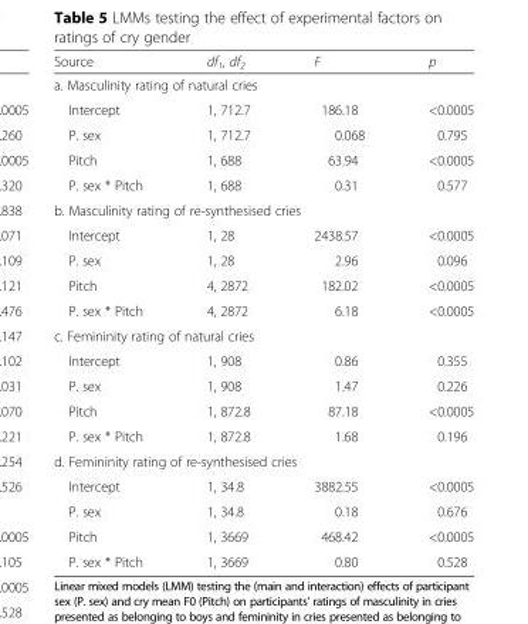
<table><thead><tr><td>Source</td><td>df<sub>1</sub>, df<sub>2</sub></td><td>F</td><td>p</td></tr></thead><tbody><tr><td colspan="4">a. Masculinity rating of natural cries</td></tr><tr><td>Intercept</td><td>1, 712.7</td><td>186.18</td><td>&lt;0.0005</td></tr><tr><td>P. sex</td><td>1, 712.7</td><td>0.068</td><td>0.795</td></tr><tr><td>Pitch</td><td>1, 688</td><td>63.94</td><td>&lt;0.0005</td></tr><tr><td>P. sex * Pitch</td><td>1, 688</td><td>0.31</td><td>0.577</td></tr><tr><td colspan="4">b. Masculinity rating of re-synthesised cries</td></tr><tr><td>Intercept</td><td>1, 28</td><td>2438.57</td><td>&lt;0.0005</td></tr><tr><td>P. sex</td><td>1, 28</td><td>2.96</td><td>0.096</td></tr><tr><td>Pitch</td><td>4, 2872</td><td>182.02</td><td>&lt;0.0005</td></tr><tr><td>P. sex * Pitch</td><td>4, 2872</td><td>6.18</td><td>&lt;0.0005</td></tr><tr><td colspan="4">c. Femininity rating of natural cries</td></tr><tr><td>Intercept</td><td>1, 908</td><td>0.86</td><td>0.355</td></tr><tr><td>P. sex</td><td>1, 908</td><td>1.47</td><td>0.226</td></tr><tr><td>Pitch</td><td>1, 872.8</td><td>87.18</td><td>&lt;0.0005</td></tr><tr><td>P. sex * Pitch</td><td>1, 872.8</td><td>1.68</td><td>0.196</td></tr><tr><td colspan="4">d. Femininity rating of re-synthesised cries</td></tr><tr><td>Intercept</td><td>1, 34.8</td><td>3882.55</td><td>&lt;0.0005</td></tr><tr><td>P. sex</td><td>1, 34.8</td><td>0.18</td><td>0.676</td></tr><tr><td>Pitch</td><td>1, 3669</td><td>468.42</td><td>&lt;0.0005</td></tr><tr><td>P. sex * Pitch</td><td>1, 3669</td><td>0.80</td><td>0.528</td></tr></tbody></table>